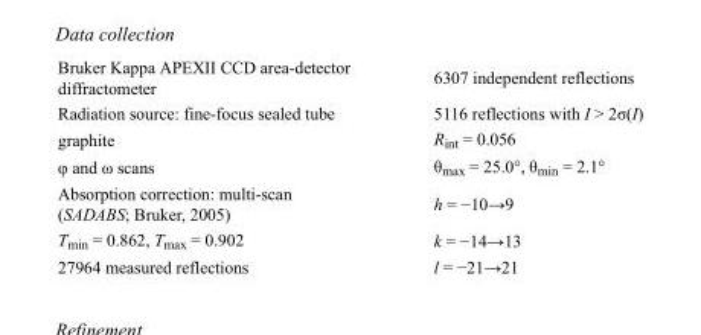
<table><tbody><tr><td>Bruker Kappa APEXII CCD area-detector diffractometer</td><td>6307 independent reflections</td></tr><tr><td>Radiation source: fine-focus sealed tube</td><td>5116 reflections with I &gt; 2σ(I)</td></tr><tr><td>graphite</td><td>R<sub>int</sub> = 0.056</td></tr><tr><td>φ and ω scans</td><td>θ<sub>max</sub> = 25.0°, θ<sub>min</sub> = 2.1°</td></tr><tr><td>Absorption correction: multi-scan (SADABS; Bruker, 2005)</td><td>h = −10→9</td></tr><tr><td>T<sub>min</sub> = 0.862, T<sub>max</sub> = 0.902</td><td>k = −14→13</td></tr><tr><td>27964 measured reflections</td><td>l = −21→21</td></tr></tbody></table>